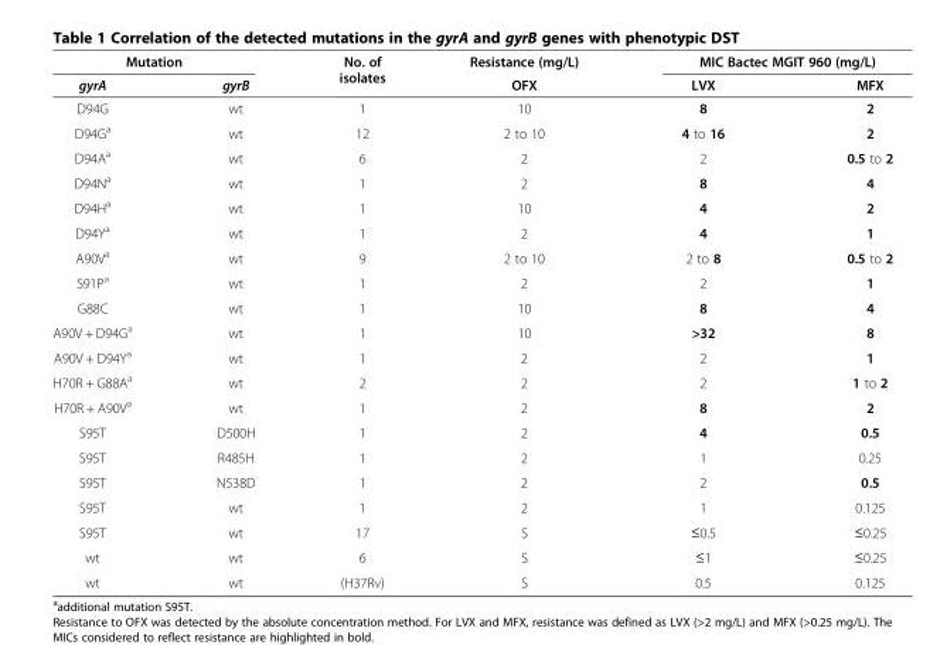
<table><thead><tr><td colspan="2">Mutation</td><td rowspan="2">No. of isolates</td><td rowspan="2">Resistance (mg/L) OFX</td><td colspan="2">MIC Bactec MGIT 960 (mg/L)</td></tr><tr><td>gyrA</td><td>gyrB</td><td>LVX</td><td>MFX</td></tr></thead><tbody><tr><td>D94G</td><td>wt</td><td>1</td><td>10</td><td>8</td><td>2</td></tr><tr><td>D94G<sup>a</sup></td><td>wt</td><td>12</td><td>2 to 10</td><td>4 to 16</td><td>2</td></tr><tr><td>D94A<sup>a</sup></td><td>wt</td><td>6</td><td>2</td><td>2</td><td>0.5 to 2</td></tr><tr><td>D94N<sup>a</sup></td><td>wt</td><td>1</td><td>2</td><td>8</td><td>4</td></tr><tr><td>D94H<sup>a</sup></td><td>wt</td><td>1</td><td>10</td><td>4</td><td>2</td></tr><tr><td>D94Y<sup>a</sup></td><td>wt</td><td>1</td><td>2</td><td>4</td><td>1</td></tr><tr><td>A90V<sup>a</sup></td><td>wt</td><td>9</td><td>2 to 10</td><td>2 to 8</td><td>0.5 to 2</td></tr><tr><td>S91P<sup>a</sup></td><td>wt</td><td>1</td><td>2</td><td>2</td><td>1</td></tr><tr><td>G88C</td><td>wt</td><td>1</td><td>10</td><td>8</td><td>4</td></tr><tr><td>A90V + D94G<sup>a</sup></td><td>wt</td><td>1</td><td>10</td><td>&gt;32</td><td>8</td></tr><tr><td>A90V + D94Y<sup>a</sup></td><td>wt</td><td>1</td><td>2</td><td>2</td><td>1</td></tr><tr><td>H70R + G88A<sup>a</sup></td><td>wt</td><td>2</td><td>2</td><td>2</td><td>1 to 2</td></tr><tr><td>H70R + A90V<sup>a</sup></td><td>wt</td><td>1</td><td>2</td><td>8</td><td>2</td></tr><tr><td>S95T</td><td>D500H</td><td>1</td><td>2</td><td>4</td><td>0.5</td></tr><tr><td>S95T</td><td>R485H</td><td>1</td><td>2</td><td>1</td><td>0.25</td></tr><tr><td>S95T</td><td>N538D</td><td>1</td><td>2</td><td>2</td><td>0.5</td></tr><tr><td>S95T</td><td>wt</td><td>1</td><td>2</td><td>1</td><td>0.125</td></tr><tr><td>S95T</td><td>wt</td><td>17</td><td>S</td><td>≤0.5</td><td>≤0.25</td></tr><tr><td>wt</td><td>wt</td><td>6</td><td>S</td><td>≤1</td><td>≤0.25</td></tr><tr><td>wt</td><td>wt</td><td>(H37Rv)</td><td>S</td><td>0.5</td><td>0.125</td></tr></tbody></table>